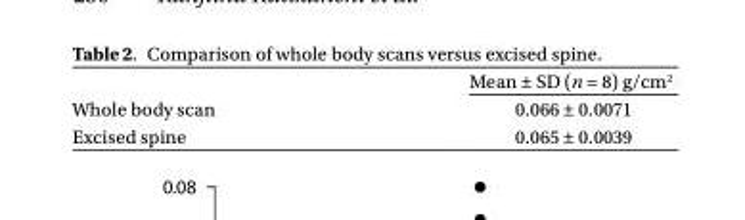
<table><thead><tr><td></td><td>Mean ± SD (n = 8) g/cm<sup>2</sup></td></tr></thead><tbody><tr><td>Whole body scan</td><td>0.066 ± 0.0071</td></tr><tr><td>Excised spine</td><td>0.065 ± 0.0039</td></tr></tbody></table>